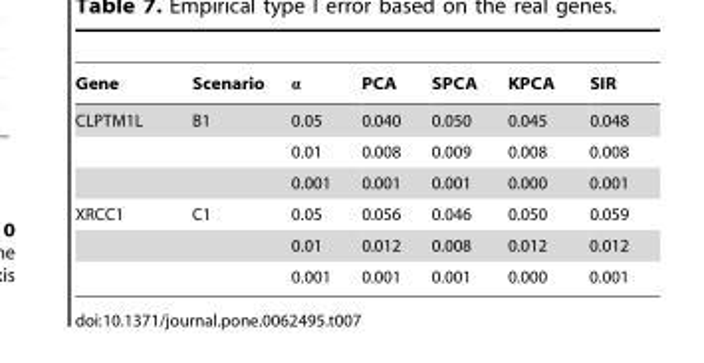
<table><thead><tr><td>Gene</td><td>Scenario</td><td>α</td><td>PCA</td><td>SPCA</td><td>KPCA</td><td>SIR</td></tr></thead><tbody><tr><td rowspan="3">CLPTM1L</td><td>B1</td><td>0.05</td><td>0.040</td><td>0.050</td><td>0.045</td><td>0.048</td></tr><tr><td></td><td>0.01</td><td>0.008</td><td>0.009</td><td>0.008</td><td>0.008</td></tr><tr><td></td><td>0.001</td><td>0.001</td><td>0.001</td><td>0.000</td><td>0.001</td></tr><tr><td rowspan="3">XRCC1</td><td>C1</td><td>0.05</td><td>0.056</td><td>0.046</td><td>0.050</td><td>0.059</td></tr><tr><td></td><td>0.01</td><td>0.012</td><td>0.008</td><td>0.012</td><td>0.012</td></tr><tr><td></td><td>0.001</td><td>0.001</td><td>0.001</td><td>0.000</td><td>0.001</td></tr></tbody></table>